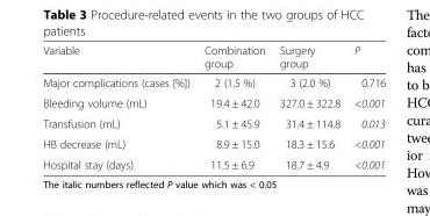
<table><thead><tr><td>Variable</td><td>Combination group</td><td>Surgery group</td><td>P</td></tr></thead><tbody><tr><td>Major complications (cases [%])</td><td>2 (1.5 %)</td><td>3 (2.0 %)</td><td>0.716</td></tr><tr><td>Bleeding volume (mL)</td><td>19.4 ± 42.0</td><td>327.0 ± 322.8</td><td>&lt;0.001</td></tr><tr><td>Transfusion (mL)</td><td>5.1 ± 45.9</td><td>31.4 ± 114.8</td><td>0.013</td></tr><tr><td>HB decrease (mL)</td><td>8.9 ± 15.0</td><td>18.3 ± 15.6</td><td>&lt;0.001</td></tr><tr><td>Hospital stay (days)</td><td>11.5 ± 6.9</td><td>18.7 ± 4.9</td><td>&lt;0.001</td></tr></tbody></table>